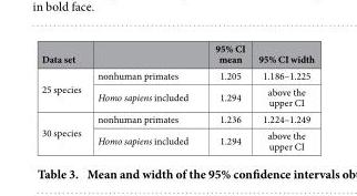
<table><thead><tr><td>Data set</td><td></td><td>95% CI mean</td><td>95% CI width</td></tr></thead><tbody><tr><td rowspan="2">25 species</td><td>nonhuman primates</td><td>1.205</td><td>1.186–1.225</td></tr><tr><td>Homo sapiens included</td><td>1.294</td><td>above the upper CI</td></tr><tr><td rowspan="2">30 species</td><td>nonhuman primates</td><td>1.236</td><td>1.224–1.249</td></tr><tr><td>Homo sapiens included</td><td>1.294</td><td>above the upper CI</td></tr></tbody></table>